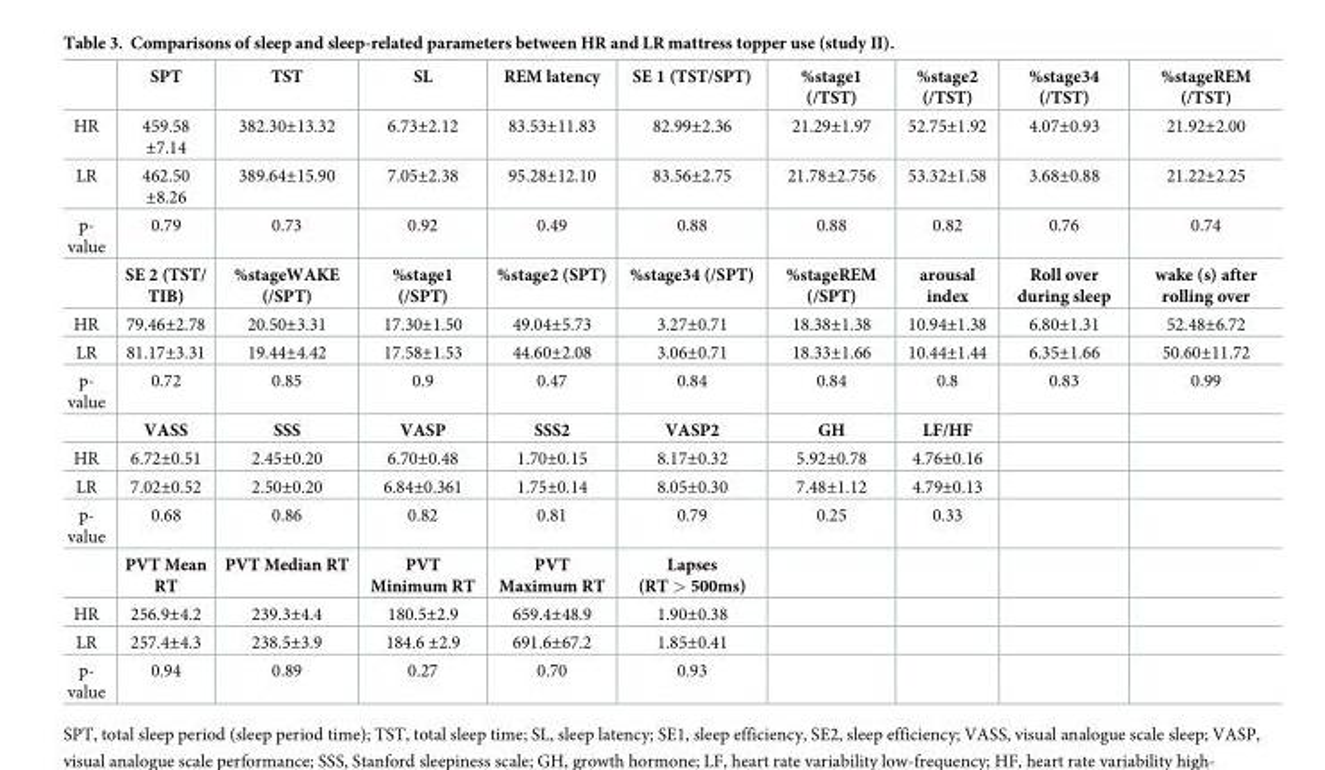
<table><thead><tr><td></td><td>SPT</td><td>TST</td><td>SL</td><td>REM latency</td><td>SE 1 (TST/SPT)</td><td>%stage1 (/TST)</td><td>%stage2 (/TST)</td><td>%stage34 (/TST)</td><td>%stageREM (/TST)</td></tr></thead><tbody><tr><td>HR</td><td>459.58 ±7.14</td><td>382.30±13.32</td><td>6.73±2.12</td><td>83.53±11.83</td><td>82.99±2.36</td><td>21.29±1.97</td><td>52.75±1.92</td><td>4.07±0.93</td><td>21.92±2.00</td></tr><tr><td>LR</td><td>462.50 ±8.26</td><td>389.64±15.90</td><td>7.05±2.38</td><td>95.28±12.10</td><td>83.56±2.75</td><td>21.78±2.756</td><td>53.32±1.58</td><td>3.68±0.88</td><td>21.22±2.25</td></tr><tr><td rowspan="2">p- value</td><td>0.79</td><td>0.73</td><td>0.92</td><td>0.49</td><td>0.88</td><td>0.88</td><td>0.82</td><td>0.76</td><td>0.74</td></tr><tr><td>SE 2 (TST/ TIB)</td><td>%stageWAKE (/SPT)</td><td>%stage1 (/SPT)</td><td>%stage2 (SPT)</td><td>%stage34 (/SPT)</td><td>%stageREM (/SPT)</td><td>arousal index</td><td>Roll over during sleep</td><td>wake (s) after rolling over</td></tr><tr><td>HR</td><td>79.46±2.78</td><td>20.50±3.31</td><td>17.30±1.50</td><td>49.04±5.73</td><td>3.27±0.71</td><td>18.38±1.38</td><td>10.94±1.38</td><td>6.80±1.31</td><td>52.48±6.72</td></tr><tr><td>LR</td><td>81.17±3.31</td><td>19.44±4.42</td><td>17.58±1.53</td><td>44.60±2.08</td><td>3.06±0.71</td><td>18.33±1.66</td><td>10.44±1.44</td><td>6.35±1.66</td><td>50.60±11.72</td></tr><tr><td rowspan="2">p- value</td><td>0.72</td><td>0.85</td><td>0.9</td><td>0.47</td><td>0.84</td><td>0.84</td><td>0.8</td><td>0.83</td><td>0.99</td></tr><tr><td>VASS</td><td>SSS</td><td>VASP</td><td>SSS2</td><td>VASP2</td><td>GH</td><td>LF/HF</td><td></td><td></td></tr><tr><td>HR</td><td>6.72±0.51</td><td>2.45±0.20</td><td>6.70±0.48</td><td>1.70±0.15</td><td>8.17±0.32</td><td>5.92±0.78</td><td>4.76±0.16</td><td></td><td></td></tr><tr><td>LR</td><td>7.02±0.52</td><td>2.50±0.20</td><td>6.84±0.361</td><td>1.75±0.14</td><td>8.05±0.30</td><td>7.48±1.12</td><td>4.79±0.13</td><td></td><td></td></tr><tr><td rowspan="2">p- value</td><td>0.68</td><td>0.86</td><td>0.82</td><td>0.81</td><td>0.79</td><td>0.25</td><td>0.33</td><td></td><td></td></tr><tr><td>PVT Mean RT</td><td>PVT Median RT</td><td>PVT Minimum RT</td><td>PVT Maximum RT</td><td>Lapses (RT &gt; 500ms)</td><td></td><td></td><td></td><td></td></tr><tr><td>HR</td><td>256.9±4.2</td><td>239.3±4.4</td><td>180.5±2.9</td><td>659.4±48.9</td><td>1.90±0.38</td><td></td><td></td><td></td><td></td></tr><tr><td>LR</td><td>257.4±4.3</td><td>238.5±3.9</td><td>184.6 ±2.9</td><td>691.6±67.2</td><td>1.85±0.41</td><td></td><td></td><td></td><td></td></tr><tr><td>p- value</td><td>0.94</td><td>0.89</td><td>0.27</td><td>0.70</td><td>0.93</td><td></td><td></td><td></td><td></td></tr></tbody></table>